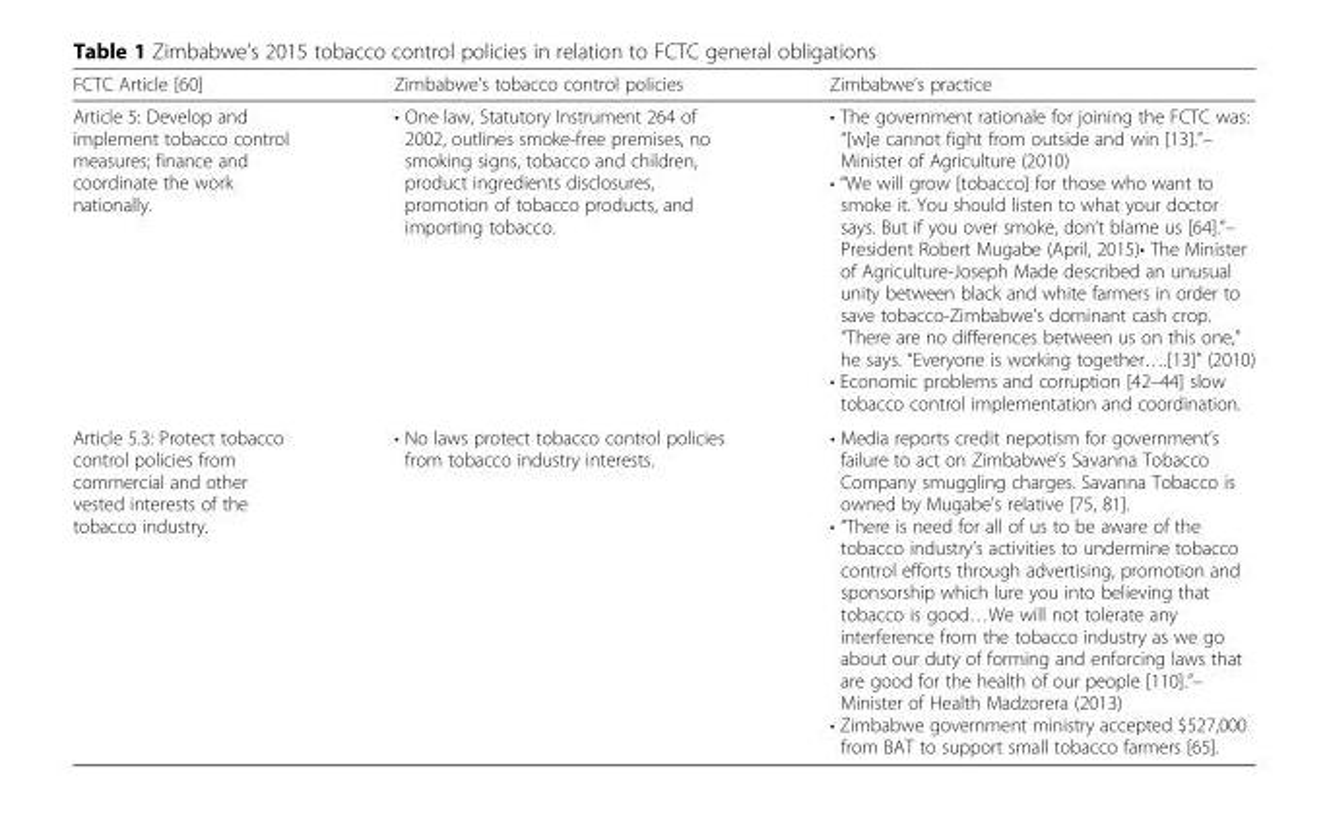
<table><thead><tr><td>FCTC Article [60]</td><td>Zimbabwe’s tobacco control policies</td><td>Zimbabwe’s practice</td></tr></thead><tbody><tr><td>Article 5: Develop and implement tobacco control measures; finance and coordinate the work nationally.</td><td>• One law, Statutory Instrument 264 of 2002, outlines smoke-free premises, no smoking signs, tobacco and children, product ingredients disclosures, promotion of tobacco products, and importing tobacco.</td><td>• The government rationale for joining the FCTC was: “[w]e cannot fight from outside and win [13].”– Minister of Agriculture (2010) • “We will grow [tobacco] for those who want to smoke it. You should listen to what your doctor says. But if you over smoke, don’t blame us [64].”– President Robert Mugabe (April, 2015)• The Minister of Agriculture-Joseph Made described an unusual unity between black and white farmers in order to save tobacco-Zimbabwe’s dominant cash crop. “There are no differences between us on this one,” he says. “Everyone is working together….[13]” (2010) • Economic problems and corruption [42–44] slow tobacco control implementation and coordination.</td></tr><tr><td>Article 5.3: Protect tobacco control policies from commercial and other vested interests of the tobacco industry.</td><td>• No laws protect tobacco control policies from tobacco industry interests.</td><td>• Media reports credit nepotism for government’s failure to act on Zimbabwe’s Savanna Tobacco Company smuggling charges. Savanna Tobacco is owned by Mugabe’s relative [75, 81]. • “There is need for all of us to be aware of the tobacco industry’s activities to undermine tobacco control efforts through advertising, promotion and sponsorship which lure you into believing that tobacco is good…We will not tolerate any interference from the tobacco industry as we go about our duty of forming and enforcing laws that are good for the health of our people [110].”– Minister of Health Madzorera (2013) • Zimbabwe government ministry accepted $527,000 from BAT to support small tobacco farmers [65].</td></tr></tbody></table>